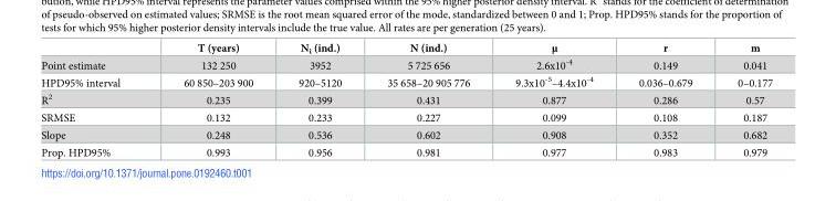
<table><thead><tr><td></td><td>T (years)</td><td>N<sub>i</sub> (ind.)</td><td>N (ind.)</td><td>μ</td><td>r</td><td>m</td></tr></thead><tbody><tr><td>Point estimate</td><td>132 250</td><td>3952</td><td>5 725 656</td><td>2.6x10<sup>-4</sup></td><td>0.149</td><td>0.041</td></tr><tr><td>HPD95% interval</td><td>60 850–203 900</td><td>920–5120</td><td>35 658–20 905 776</td><td>9.3x10<sup>-5</sup>–4.4x10<sup>-4</sup></td><td>0.036–0.679</td><td>0–0.177</td></tr><tr><td>R<sup>2</sup></td><td>0.235</td><td>0.399</td><td>0.431</td><td>0.877</td><td>0.286</td><td>0.57</td></tr><tr><td>SRMSE</td><td>0.132</td><td>0.233</td><td>0.227</td><td>0.099</td><td>0.108</td><td>0.187</td></tr><tr><td>Slope</td><td>0.248</td><td>0.536</td><td>0.602</td><td>0.908</td><td>0.352</td><td>0.682</td></tr><tr><td>Prop. HPD95%</td><td>0.993</td><td>0.956</td><td>0.981</td><td>0.977</td><td>0.983</td><td>0.979</td></tr></tbody></table>